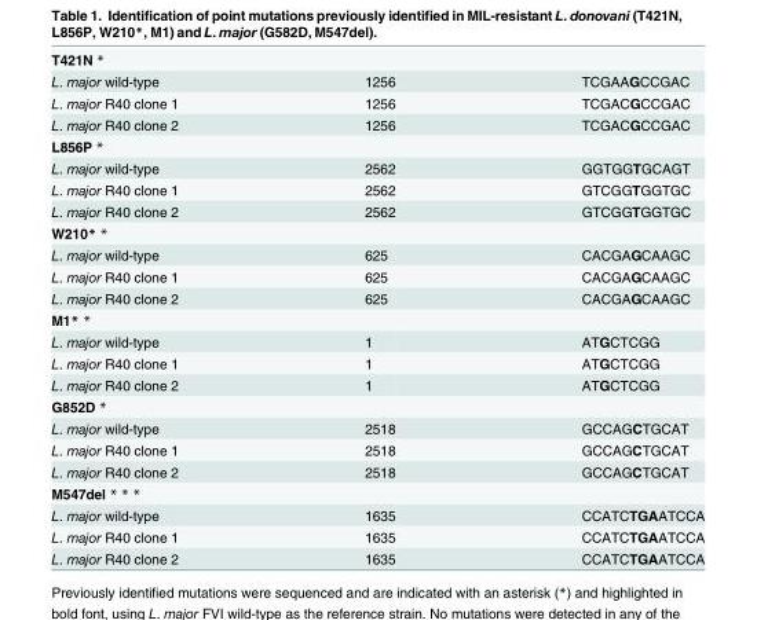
<table><tbody><tr><td colspan="3">T421N *</td></tr><tr><td>L. major wild-type</td><td>1256</td><td>TCGAAGCCGAC</td></tr><tr><td>L. major R40 clone 1</td><td>1256</td><td>TCGACGCCGAC</td></tr><tr><td>L. major R40 clone 2</td><td>1256</td><td>TCGACGCCGAC</td></tr><tr><td colspan="3">L856P *</td></tr><tr><td>L. major wild-type</td><td>2562</td><td>GGTGGTGCAGT</td></tr><tr><td>L. major R40 clone 1</td><td>2562</td><td>GTCGGTGGTGC</td></tr><tr><td>L. major R40 clone 2</td><td>2562</td><td>GTCGGTGGTGC</td></tr><tr><td colspan="3">W210* *</td></tr><tr><td>L. major wild-type</td><td>625</td><td>CACGAGCAAGC</td></tr><tr><td>L. major R40 clone 1</td><td>625</td><td>CACGAGCAAGC</td></tr><tr><td>L. major R40 clone 2</td><td>625</td><td>CACGAGCAAGC</td></tr><tr><td colspan="3">M1* *</td></tr><tr><td>L. major wild-type</td><td>1</td><td>ATGCTCGG</td></tr><tr><td>L. major R40 clone 1</td><td>1</td><td>ATGCTCGG</td></tr><tr><td>L. major R40 clone 2</td><td>1</td><td>ATGCTCGG</td></tr><tr><td colspan="3">G852D *</td></tr><tr><td>L. major wild-type</td><td>2518</td><td>GCCAGCTGCAT</td></tr><tr><td>L. major R40 clone 1</td><td>2518</td><td>GCCAGCTGCAT</td></tr><tr><td>L. major R40 clone 2</td><td>2518</td><td>GCCAGCTGCAT</td></tr><tr><td colspan="3">M547del * * *</td></tr><tr><td>L. major wild-type</td><td>1635</td><td>CCATCTGAATCCA</td></tr><tr><td>L. major R40 clone 1</td><td>1635</td><td>CCATCTGAATCCA</td></tr><tr><td>L. major R40 clone 2</td><td>1635</td><td>CCATCTGAATCCA</td></tr></tbody></table>